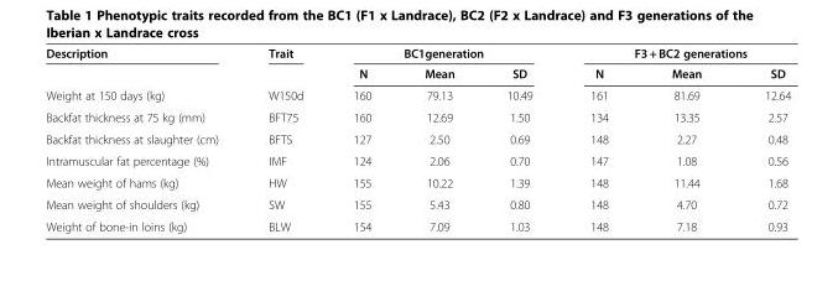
<table><thead><tr><td rowspan="2">Description</td><td rowspan="2">Trait</td><td colspan="3">BC1generation</td><td colspan="3">F3 + BC2 generations</td></tr><tr><td>N</td><td>Mean</td><td>SD</td><td>N</td><td>Mean</td><td>SD</td></tr></thead><tbody><tr><td>Weight at 150 days (kg)</td><td>W150d</td><td>160</td><td>79.13</td><td>10.49</td><td>161</td><td>81.69</td><td>12.64</td></tr><tr><td>Backfat thickness at 75 kg (mm)</td><td>BFT75</td><td>160</td><td>12.69</td><td>1.50</td><td>134</td><td>13.35</td><td>2.57</td></tr><tr><td>Backfat thickness at slaughter (cm)</td><td>BFTS</td><td>127</td><td>2.50</td><td>0.69</td><td>148</td><td>2.27</td><td>0.48</td></tr><tr><td>Intramuscular fat percentage (%)</td><td>IMF</td><td>124</td><td>2.06</td><td>0.70</td><td>147</td><td>1.08</td><td>0.56</td></tr><tr><td>Mean weight of hams (kg)</td><td>HW</td><td>155</td><td>10.22</td><td>1.39</td><td>148</td><td>11.44</td><td>1.68</td></tr><tr><td>Mean weight of shoulders (kg)</td><td>SW</td><td>155</td><td>5.43</td><td>0.80</td><td>148</td><td>4.70</td><td>0.72</td></tr><tr><td>Weight of bone-in loins (kg)</td><td>BLW</td><td>154</td><td>7.09</td><td>1.03</td><td>148</td><td>7.18</td><td>0.93</td></tr></tbody></table>